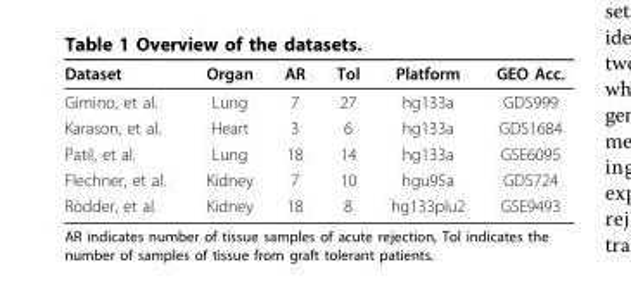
<table><thead><tr><td>Dataset</td><td>Organ</td><td>AR</td><td>Tol</td><td>Platform</td><td>GEO Acc.</td></tr></thead><tbody><tr><td>Gimino, et al.</td><td>Lung</td><td>7</td><td>27</td><td>hg133a</td><td>GDS999</td></tr><tr><td>Karason, et al.</td><td>Heart</td><td>3</td><td>6</td><td>hg133a</td><td>GDS1684</td></tr><tr><td>Patil, et al.</td><td>Lung</td><td>18</td><td>14</td><td>hg133a</td><td>GSE6095</td></tr><tr><td>Flechner, et al.</td><td>Kidney</td><td>7</td><td>10</td><td>hgu95a</td><td>GDS724</td></tr><tr><td>Rödder, et al.</td><td>Kidney</td><td>18</td><td>8</td><td>hg133plu2</td><td>GSE9493</td></tr></tbody></table>